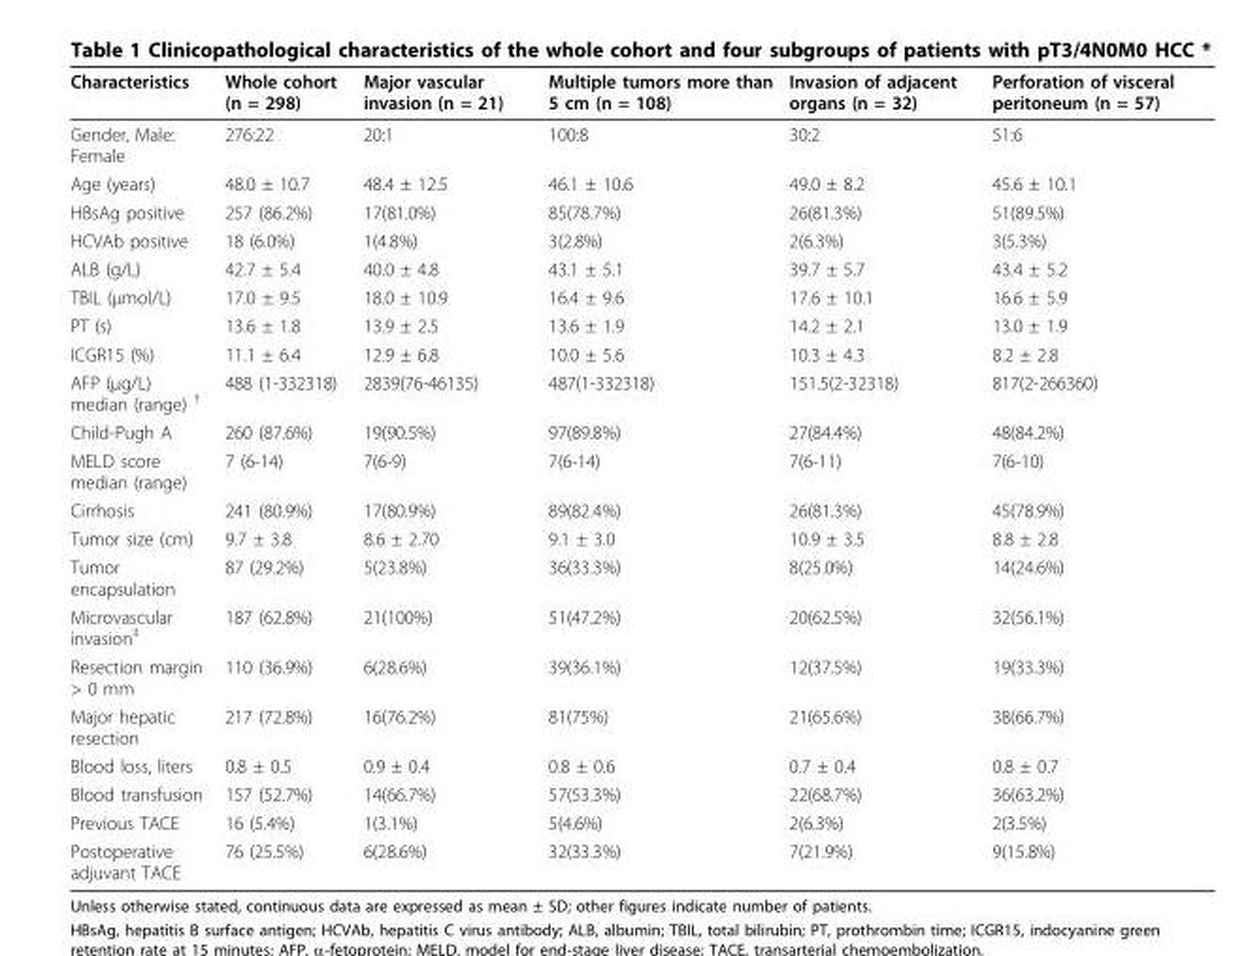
<table><thead><tr><td>Characteristics</td><td>Whole cohort (n = 298)</td><td>Major vascular invasion (n = 21)</td><td>Multiple tumors more than 5 cm (n = 108)</td><td>Invasion of adjacent organs (n = 32)</td><td>Perforation of visceral peritoneum (n = 57)</td></tr></thead><tbody><tr><td>Gender, Male: Female</td><td>276:22</td><td>20:1</td><td>100:8</td><td>30:2</td><td>51:6</td></tr><tr><td>Age (years)</td><td>48.0 ± 10.7</td><td>48.4 ± 12.5</td><td>46.1 ± 10.6</td><td>49.0 ± 8.2</td><td>45.6 ± 10.1</td></tr><tr><td>HBsAg positive</td><td>257 (86.2%)</td><td>17(81.0%)</td><td>85(78.7%)</td><td>26(81.3%)</td><td>51(89.5%)</td></tr><tr><td>HCVAb positive</td><td>18 (6.0%)</td><td>1(4.8%)</td><td>3(2.8%)</td><td>2(6.3%)</td><td>3(5.3%)</td></tr><tr><td>ALB (g/L)</td><td>42.7 ± 5.4</td><td>40.0 ± 4.8</td><td>43.1 ± 5.1</td><td>39.7 ± 5.7</td><td>43.4 ± 5.2</td></tr><tr><td>TBIL (μmol/L)</td><td>17.0 ± 9.5</td><td>18.0 ± 10.9</td><td>16.4 ± 9.6</td><td>17.6 ± 10.1</td><td>16.6 ± 5.9</td></tr><tr><td>PT (s)</td><td>13.6 ± 1.8</td><td>13.9 ± 2.5</td><td>13.6 ± 1.9</td><td>14.2 ± 2.1</td><td>13.0 ± 1.9</td></tr><tr><td>ICGR15 (%)</td><td>11.1 ± 6.4</td><td>12.9 ± 6.8</td><td>10.0 ± 5.6</td><td>10.3 ± 4.3</td><td>8.2 ± 2.8</td></tr><tr><td>AFP (μg/L) median (range) <sup>†</sup></td><td>488 (1-332318)</td><td>2839(76-46135)</td><td>487(1-332318)</td><td>151.5(2-32318)</td><td>817(2-266360)</td></tr><tr><td>Child-Pugh A</td><td>260 (87.6%)</td><td>19(90.5%)</td><td>97(89.8%)</td><td>27(84.4%)</td><td>48(84.2%)</td></tr><tr><td>MELD score median (range)</td><td>7 (6-14)</td><td>7(6-9)</td><td>7(6-14)</td><td>7(6-11)</td><td>7(6-10)</td></tr><tr><td>Cirrhosis</td><td>241 (80.9%)</td><td>17(80.9%)</td><td>89(82.4%)</td><td>26(81.3%)</td><td>45(78.9%)</td></tr><tr><td>Tumor size (cm)</td><td>9.7 ± 3.8</td><td>8.6 ± 2.70</td><td>9.1 ± 3.0</td><td>10.9 ± 3.5</td><td>8.8 ± 2.8</td></tr><tr><td>Tumor encapsulation</td><td>87 (29.2%)</td><td>5(23.8%)</td><td>36(33.3%)</td><td>8(25.0%)</td><td>14(24.6%)</td></tr><tr><td>Microvascular invasion<sup>‡</sup></td><td>187 (62.8%)</td><td>21(100%)</td><td>51(47.2%)</td><td>20(62.5%)</td><td>32(56.1%)</td></tr><tr><td>Resection margin &gt; 0 mm</td><td>110 (36.9%)</td><td>6(28.6%)</td><td>39(36.1%)</td><td>12(37.5%)</td><td>19(33.3%)</td></tr><tr><td>Major hepatic resection</td><td>217 (72.8%)</td><td>16(76.2%)</td><td>81(75%)</td><td>21(65.6%)</td><td>38(66.7%)</td></tr><tr><td>Blood loss, liters</td><td>0.8 ± 0.5</td><td>0.9 ± 0.4</td><td>0.8 ± 0.6</td><td>0.7 ± 0.4</td><td>0.8 ± 0.7</td></tr><tr><td>Blood transfusion</td><td>157 (52.7%)</td><td>14(66.7%)</td><td>57(53.3%)</td><td>22(68.7%)</td><td>36(63.2%)</td></tr><tr><td>Previous TACE</td><td>16 (5.4%)</td><td>1(3.1%)</td><td>5(4.6%)</td><td>2(6.3%)</td><td>2(3.5%)</td></tr><tr><td>Postoperative adjuvant TACE</td><td>76 (25.5%)</td><td>6(28.6%)</td><td>32(33.3%)</td><td>7(21.9%)</td><td>9(15.8%)</td></tr></tbody></table>